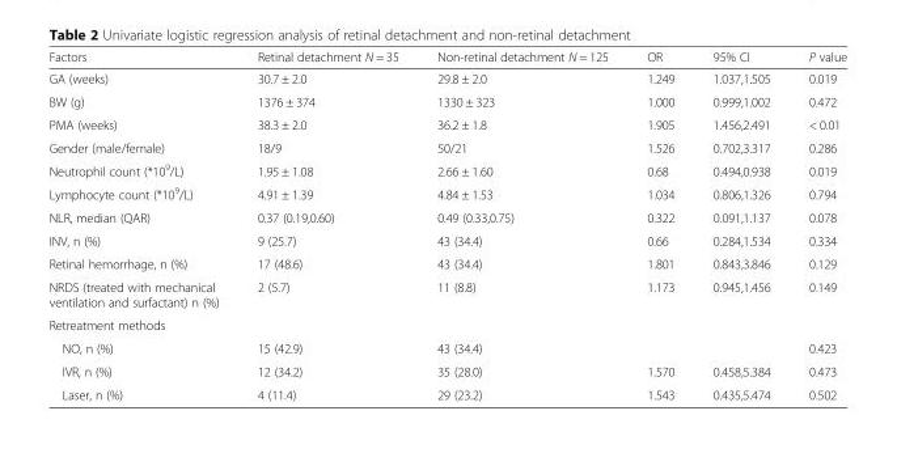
<table><thead><tr><td>Factors</td><td>Retinal detachment N = 35</td><td>Non-retinal detachment N = 125</td><td>OR</td><td>95% CI</td><td>P value</td></tr></thead><tbody><tr><td>GA (weeks)</td><td>30.7 ± 2.0</td><td>29.8 ± 2.0</td><td>1.249</td><td>1.037,1.505</td><td>0.019</td></tr><tr><td>BW (g)</td><td>1376 ± 374</td><td>1330 ± 323</td><td>1.000</td><td>0.999,1.002</td><td>0.472</td></tr><tr><td>PMA (weeks)</td><td>38.3 ± 2.0</td><td>36.2 ± 1.8</td><td>1.905</td><td>1.456,2.491</td><td>&lt; 0.01</td></tr><tr><td>Gender (male/female)</td><td>18/9</td><td>50/21</td><td>1.526</td><td>0.702,3.317</td><td>0.286</td></tr><tr><td>Neutrophil count (*10<sup>9</sup>/L)</td><td>1.95 ± 1.08</td><td>2.66 ± 1.60</td><td>0.68</td><td>0.494,0.938</td><td>0.019</td></tr><tr><td>Lymphocyte count (*10<sup>9</sup>/L)</td><td>4.91 ± 1.39</td><td>4.84 ± 1.53</td><td>1.034</td><td>0.806,1.326</td><td>0.794</td></tr><tr><td>NLR, median (QAR)</td><td>0.37 (0.19,0.60)</td><td>0.49 (0.33,0.75)</td><td>0.322</td><td>0.091,1.137</td><td>0.078</td></tr><tr><td>INV, n (%)</td><td>9 (25.7)</td><td>43 (34.4)</td><td>0.66</td><td>0.284,1.534</td><td>0.334</td></tr><tr><td>Retinal hemorrhage, n (%)</td><td>17 (48.6)</td><td>43 (34.4)</td><td>1.801</td><td>0.843,3.846</td><td>0.129</td></tr><tr><td>NRDS (treated with mechanical ventilation and surfactant) n (%)</td><td>2 (5.7)</td><td>11 (8.8)</td><td>1.173</td><td>0.945,1.456</td><td>0.149</td></tr><tr><td colspan="6">Retreatment methods</td></tr><tr><td>NO, n (%)</td><td>15 (42.9)</td><td>43 (34.4)</td><td></td><td></td><td>0.423</td></tr><tr><td>IVR, n (%)</td><td>12 (34.2)</td><td>35 (28.0)</td><td>1.570</td><td>0.458,5.384</td><td>0.473</td></tr><tr><td>Laser, n (%)</td><td>4 (11.4)</td><td>29 (23.2)</td><td>1.543</td><td>0.435,5.474</td><td>0.502</td></tr></tbody></table>